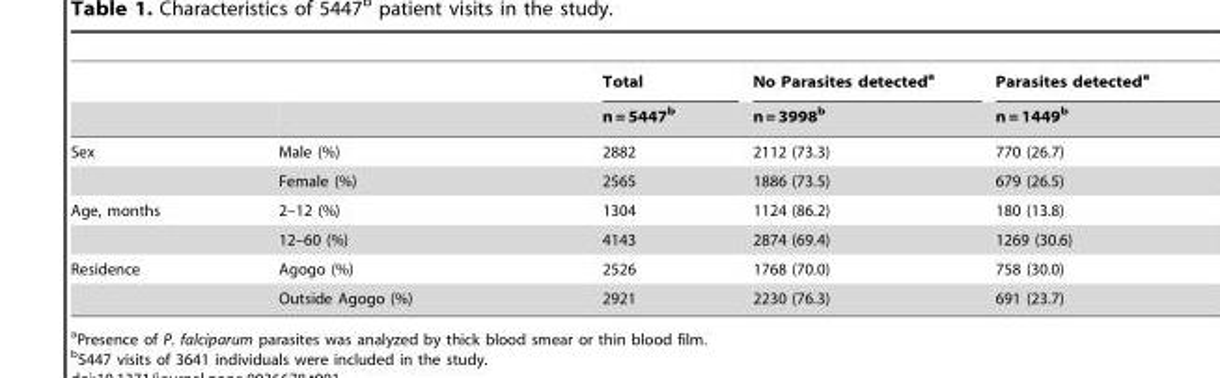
<table><thead><tr><td rowspan="2"></td><td rowspan="2"></td><td rowspan="2">Total n = 5447<sup>b</sup></td><td rowspan="2">No Parasites detected<sup>a</sup> n = 3998<sup>b</sup></td><td rowspan="2">Parasites detected<sup>a</sup> n = 1449<sup>b</sup></td></tr><tr></tr></thead><tbody><tr><td rowspan="2">Sex</td><td>Male (%)</td><td>2882</td><td>2112 (73.3)</td><td>770 (26.7)</td></tr><tr><td>Female (%)</td><td>2565</td><td>1886 (73.5)</td><td>679 (26.5)</td></tr><tr><td rowspan="2">Age, months</td><td>2–12 (%)</td><td>1304</td><td>1124 (86.2)</td><td>180 (13.8)</td></tr><tr><td>12–60 (%)</td><td>4143</td><td>2874 (69.4)</td><td>1269 (30.6)</td></tr><tr><td rowspan="2">Residence</td><td>Agogo (%)</td><td>2526</td><td>1768 (70.0)</td><td>758 (30.0)</td></tr><tr><td>Outside Agogo (%)</td><td>2921</td><td>2230 (76.3)</td><td>691 (23.7)</td></tr></tbody></table>